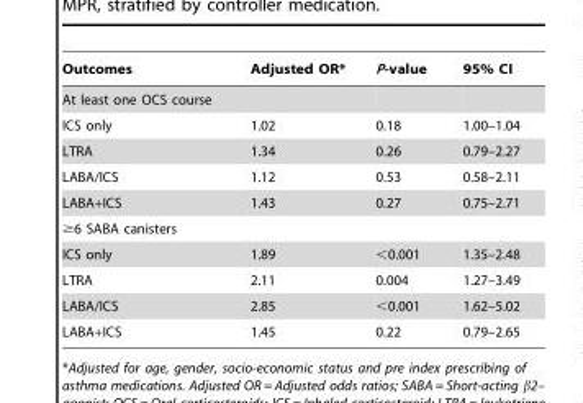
<table><thead><tr><td>Outcomes</td><td>Adjusted OR*</td><td>P-value</td><td>95% CI</td></tr></thead><tbody><tr><td colspan="4">At least one OCS course</td></tr><tr><td>ICS only</td><td>1.02</td><td>0.18</td><td>1.00–1.04</td></tr><tr><td>LTRA</td><td>1.34</td><td>0.26</td><td>0.79–2.27</td></tr><tr><td>LABA/ICS</td><td>1.12</td><td>0.53</td><td>0.58–2.11</td></tr><tr><td>LABA+ICS</td><td>1.43</td><td>0.27</td><td>0.75–2.71</td></tr><tr><td colspan="4">≥6 SABA canisters</td></tr><tr><td>ICS only</td><td>1.89</td><td>&lt;0.001</td><td>1.35–2.48</td></tr><tr><td>LTRA</td><td>2.11</td><td>0.004</td><td>1.27–3.49</td></tr><tr><td>LABA/ICS</td><td>2.85</td><td>&lt;0.001</td><td>1.62–5.02</td></tr><tr><td>LABA+ICS</td><td>1.45</td><td>0.22</td><td>0.79–2.65</td></tr></tbody></table>